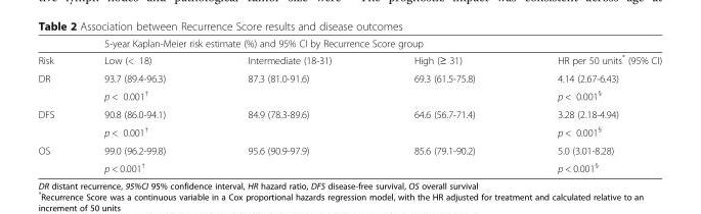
<table><thead><tr><td rowspan="2">Risk</td><td colspan="3">5-year Kaplan-Meier risk estimate (%) and 95% CI by Recurrence Score group</td><td rowspan="2">HR per 50 units* (95% CI)</td></tr><tr><td>Low (&lt; 18)</td><td>Intermediate (18-31)</td><td>High (≥ 31)</td></tr></thead><tbody><tr><td rowspan="2">DR</td><td>93.7 (89.4-96.3)</td><td>87.3 (81.0-91.6)</td><td>69.3 (61.5-75.8)</td><td>4.14 (2.67-6.43)</td></tr><tr><td>p &lt; 0.001<sup>†</sup></td><td></td><td></td><td>p &lt; 0.001<sup>§</sup></td></tr><tr><td rowspan="2">DFS</td><td>90.8 (86.0-94.1)</td><td>84.9 (78.3-89.6)</td><td>64.6 (56.7-71.4)</td><td>3.28 (2.18-4.94)</td></tr><tr><td>p &lt; 0.001<sup>†</sup></td><td></td><td></td><td>p &lt; 0.001<sup>§</sup></td></tr><tr><td rowspan="2">OS</td><td>99.0 (96.2-99.8)</td><td>95.6 (90.9-97.9)</td><td>85.6 (79.1-90.2)</td><td>5.0 (3.01-8.28)</td></tr><tr><td>p &lt; 0.001<sup>†</sup></td><td></td><td></td><td>p &lt; 0.001<sup>§</sup></td></tr></tbody></table>